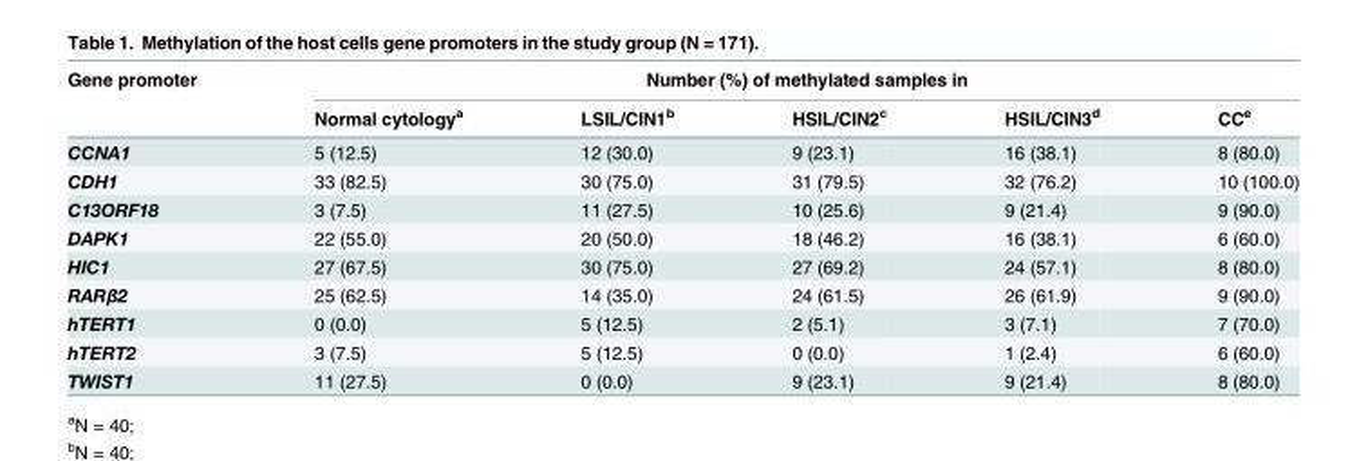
<table><thead><tr><td rowspan="2">Gene promoter</td><td colspan="5">Number (%) of methylated samples in</td></tr><tr><td>Normal cytology<sup>a</sup></td><td>LSIL/CIN1<sup>b</sup></td><td>HSIL/CIN2<sup>c</sup></td><td>HSIL/CIN3<sup>d</sup></td><td>CC<sup>e</sup></td></tr></thead><tbody><tr><td>CCNA1</td><td>5 (12.5)</td><td>12 (30.0)</td><td>9 (23.1)</td><td>16 (38.1)</td><td>8 (80.0)</td></tr><tr><td>CDH1</td><td>33 (82.5)</td><td>30 (75.0)</td><td>31 (79.5)</td><td>32 (76.2)</td><td>10 (100.0)</td></tr><tr><td>C13ORF18</td><td>3 (7.5)</td><td>11 (27.5)</td><td>10 (25.6)</td><td>9 (21.4)</td><td>9 (90.0)</td></tr><tr><td>DAPK1</td><td>22 (55.0)</td><td>20 (50.0)</td><td>18 (46.2)</td><td>16 (38.1)</td><td>6 (60.0)</td></tr><tr><td>HIC1</td><td>27 (67.5)</td><td>30 (75.0)</td><td>27 (69.2)</td><td>24 (57.1)</td><td>8 (80.0)</td></tr><tr><td>RARβ2</td><td>25 (62.5)</td><td>14 (35.0)</td><td>24 (61.5)</td><td>26 (61.9)</td><td>9 (90.0)</td></tr><tr><td>hTERT1</td><td>0 (0.0)</td><td>5 (12.5)</td><td>2 (5.1)</td><td>3 (7.1)</td><td>7 (70.0)</td></tr><tr><td>hTERT2</td><td>3 (7.5)</td><td>5 (12.5)</td><td>0 (0.0)</td><td>1 (2.4)</td><td>6 (60.0)</td></tr><tr><td>TWIST1</td><td>11 (27.5)</td><td>0 (0.0)</td><td>9 (23.1)</td><td>9 (21.4)</td><td>8 (80.0)</td></tr></tbody></table>